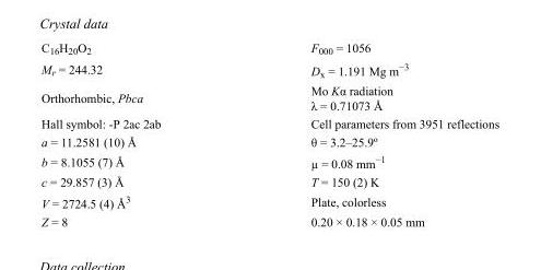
<table><tbody><tr><td>C<sub>16</sub>H<sub>20</sub>O<sub>2</sub></td><td>F000 = 1056</td></tr><tr><td>M<sub>r</sub> = 244.32</td><td>D<sub>x</sub> = 1.191 Mg m<sup>−3</sup></td></tr><tr><td>Orthorhombic, Pbca</td><td>Mo Kα radiation λ = 0.71073 Å</td></tr><tr><td>Hall symbol: -P 2ac 2ab</td><td>Cell parameters from 3951 reflections</td></tr><tr><td>a = 11.2581 (10) Å</td><td>θ = 3.2–25.9º</td></tr><tr><td>b = 8.1055 (7) Å</td><td>µ = 0.08 mm<sup>−1</sup></td></tr><tr><td>c = 29.857 (3) Å</td><td>T = 150 (2) K</td></tr><tr><td>V = 2724.5 (4) Å<sup>3</sup></td><td>Plate, colorless</td></tr><tr><td>Z = 8</td><td>0.20 × 0.18 × 0.05 mm</td></tr></tbody></table>